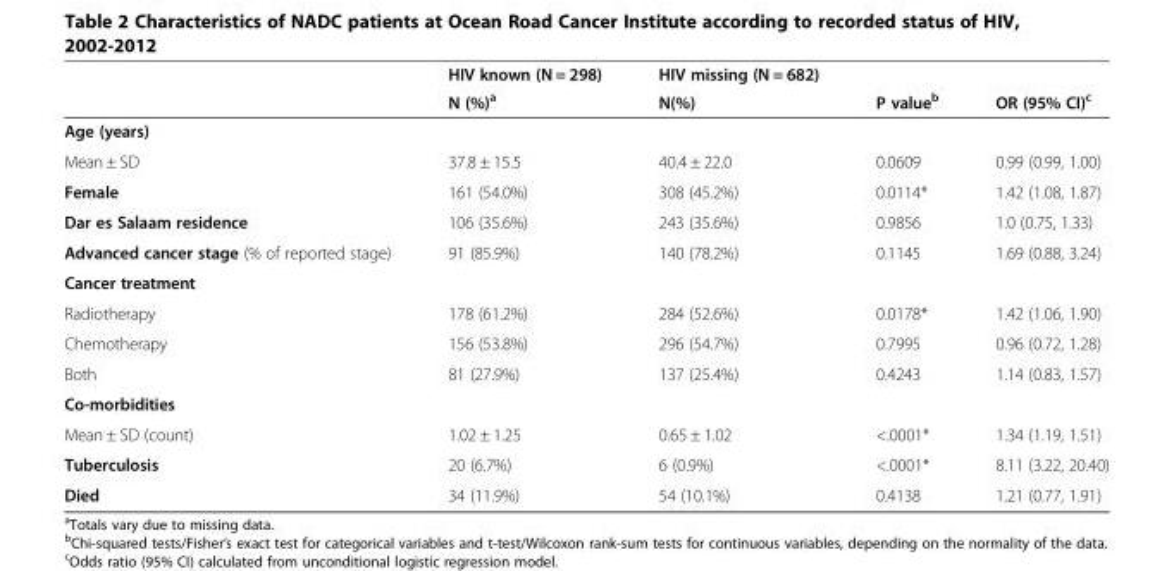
<table><thead><tr><td rowspan="2"></td><td rowspan="2">HIV known (N = 298) N (%)<sup>a</sup></td><td rowspan="2">HIV missing (N = 682) N(%)</td><td rowspan="2">P value<sup>b</sup></td><td rowspan="2">OR (95% CI)<sup>c</sup></td></tr><tr></tr></thead><tbody><tr><td colspan="5">Age (years)</td></tr><tr><td>Mean ± SD</td><td>37.8 ± 15.5</td><td>40.4 ± 22.0</td><td>0.0609</td><td>0.99 (0.99, 1.00)</td></tr><tr><td>Female</td><td>161 (54.0%)</td><td>308 (45.2%)</td><td>0.0114*</td><td>1.42 (1.08, 1.87)</td></tr><tr><td>Dar es Salaam residence</td><td>106 (35.6%)</td><td>243 (35.6%)</td><td>0.9856</td><td>1.0 (0.75, 1.33)</td></tr><tr><td>Advanced cancer stage (% of reported stage)</td><td>91 (85.9%)</td><td>140 (78.2%)</td><td>0.1145</td><td>1.69 (0.88, 3.24)</td></tr><tr><td colspan="5">Cancer treatment</td></tr><tr><td>Radiotherapy</td><td>178 (61.2%)</td><td>284 (52.6%)</td><td>0.0178*</td><td>1.42 (1.06, 1.90)</td></tr><tr><td>Chemotherapy</td><td>156 (53.8%)</td><td>296 (54.7%)</td><td>0.7995</td><td>0.96 (0.72, 1.28)</td></tr><tr><td>Both</td><td>81 (27.9%)</td><td>137 (25.4%)</td><td>0.4243</td><td>1.14 (0.83, 1.57)</td></tr><tr><td colspan="5">Co-morbidities</td></tr><tr><td>Mean ± SD (count)</td><td>1.02 ± 1.25</td><td>0.65 ± 1.02</td><td>&lt;.0001*</td><td>1.34 (1.19, 1.51)</td></tr><tr><td>Tuberculosis</td><td>20 (6.7%)</td><td>6 (0.9%)</td><td>&lt;.0001*</td><td>8.11 (3.22, 20.40)</td></tr><tr><td>Died</td><td>34 (11.9%)</td><td>54 (10.1%)</td><td>0.4138</td><td>1.21 (0.77, 1.91)</td></tr></tbody></table>